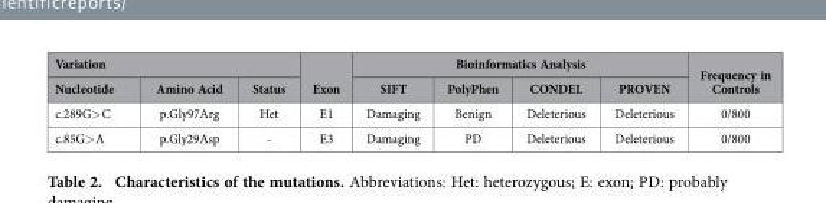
<table><thead><tr><td colspan="3">Variation</td><td rowspan="2">Exon</td><td colspan="4">Bioinformatics Analysis</td><td rowspan="2">Frequency in Controls</td></tr><tr><td>Nucleotide</td><td>Amino Acid</td><td>Status</td><td>SIFT</td><td>PolyPhen</td><td>CONDEL</td><td>PROVEN</td></tr></thead><tbody><tr><td>c.289G&gt; C</td><td>p.Gly97Arg</td><td>Het</td><td>E1</td><td>Damaging</td><td>Benign</td><td>Deleterious</td><td>Deleterious</td><td>0/800</td></tr><tr><td>c.85G&gt; A</td><td>p.Gly29Asp</td><td>-</td><td>E3</td><td>Damaging</td><td>PD</td><td>Deleterious</td><td>Deleterious</td><td>0/800</td></tr></tbody></table>